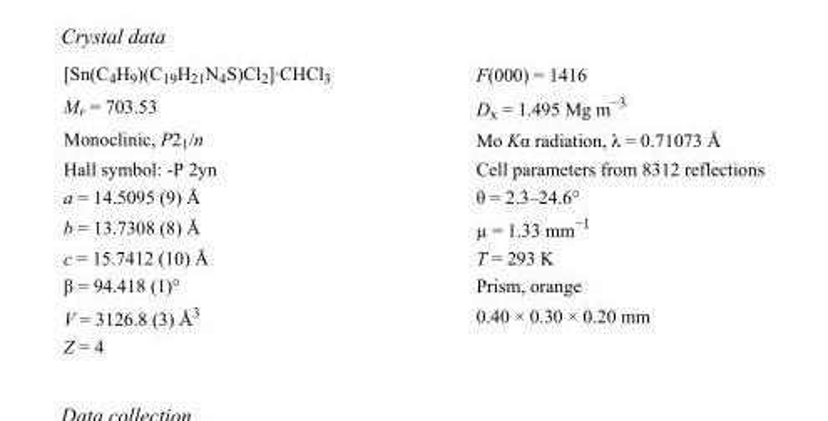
<table><tbody><tr><td>[Sn(C<sub>4</sub>H<sub>9</sub>)(C<sub>19</sub>H<sub>21</sub>N<sub>4</sub>S)Cl<sub>2</sub>]·CHCl<sub>3</sub></td><td>F(000) = 1416</td></tr><tr><td>M<sub>r</sub> = 703.53</td><td>D<sub>x</sub> = 1.495 Mg m<sup>−3</sup></td></tr><tr><td>Monoclinic, P2<sub>1</sub>/n</td><td>Mo Kα radiation, λ = 0.71073 Å</td></tr><tr><td>Hall symbol: -P 2yn</td><td>Cell parameters from 8312 reflections</td></tr><tr><td>a = 14.5095 (9) Å</td><td>θ = 2.3–24.6°</td></tr><tr><td>b = 13.7308 (8) Å</td><td>µ = 1.33 mm<sup>−1</sup></td></tr><tr><td>c = 15.7412 (10) Å</td><td>T = 293 K</td></tr><tr><td>β = 94.418 (1)°</td><td>Prism, orange</td></tr><tr><td>V = 3126.8 (3) Å<sup>3</sup></td><td>0.40 × 0.30 × 0.20 mm</td></tr><tr><td>Z = 4</td><td></td></tr></tbody></table>